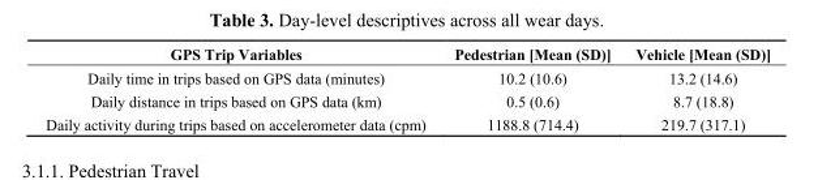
<table><thead><tr><td>GPS Trip Variables</td><td>Pedestrian [Mean (SD)]</td><td>Vehicle [Mean (SD)]</td></tr></thead><tbody><tr><td>Daily time in trips based on GPS data (minutes)</td><td>10.2 (10.6)</td><td>13.2 (14.6)</td></tr><tr><td>Daily distance in trips based on GPS data (km)</td><td>0.5 (0.6)</td><td>8.7 (18.8)</td></tr><tr><td>Daily activity during trips based on accelerometer data (cpm)</td><td>1188.8 (714.4)</td><td>219.7 (317.1)</td></tr></tbody></table>